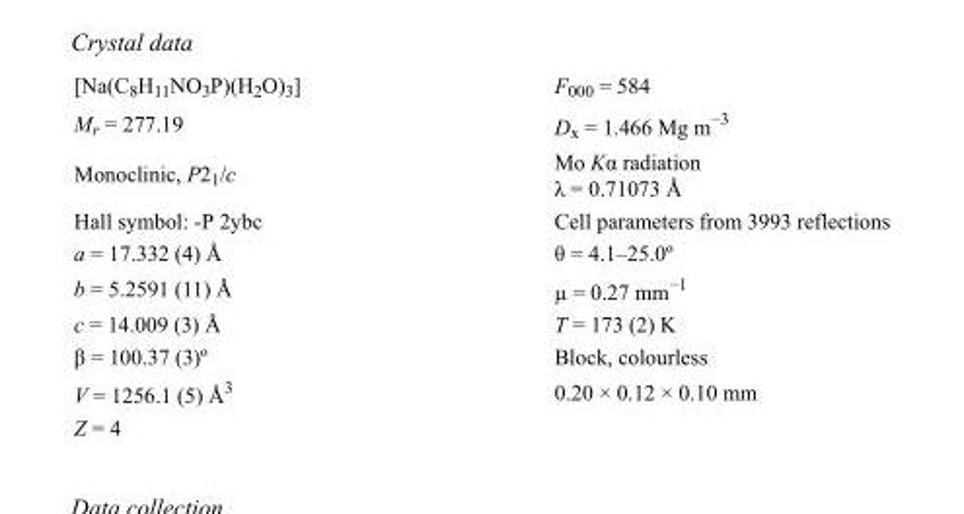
<table><tbody><tr><td>[Na(C<sub>8</sub>H<sub>11</sub>NO<sub>3</sub>P)(H<sub>2</sub>O)<sub>3</sub>]</td><td>F<sub>000</sub> = 584</td></tr><tr><td>M<sub>r</sub> = 277.19</td><td>D<sub>x</sub> = 1.466 Mg m<sup>−3</sup></td></tr><tr><td>Monoclinic, P2<sub>1</sub>/c</td><td>Mo Kα radiation λ = 0.71073 Å</td></tr><tr><td>Hall symbol: -P 2ybc</td><td>Cell parameters from 3993 reflections</td></tr><tr><td>a = 17.332 (4) Å</td><td>θ = 4.1–25.0º</td></tr><tr><td>b = 5.2591 (11) Å</td><td>µ = 0.27 mm<sup>−1</sup></td></tr><tr><td>c = 14.009 (3) Å</td><td>T = 173 (2) K</td></tr><tr><td>β = 100.37 (3)º</td><td>Block, colourless</td></tr><tr><td>V = 1256.1 (5) Å<sup>3</sup></td><td>0.20 × 0.12 × 0.10 mm</td></tr><tr><td>Z = 4</td><td></td></tr></tbody></table>